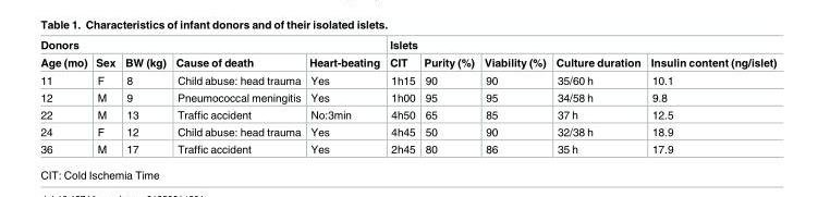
<table><thead><tr><td colspan="5">Donors</td><td colspan="5">Islets</td></tr><tr><td>Age (mo)</td><td>Sex</td><td>BW (kg)</td><td>Cause of death</td><td>Heart-beating</td><td>CIT</td><td>Purity (%)</td><td>Viability (%)</td><td>Culture duration</td><td>Insulin content (ng/islet)</td></tr></thead><tbody><tr><td>11</td><td>F</td><td>8</td><td>Child abuse: head trauma</td><td>Yes</td><td>1h15</td><td>90</td><td>90</td><td>35/60 h</td><td>10.1</td></tr><tr><td>12</td><td>M</td><td>9</td><td>Pneumococcal meningitis</td><td>Yes</td><td>1h00</td><td>95</td><td>95</td><td>34/58 h</td><td>9.8</td></tr><tr><td>22</td><td>M</td><td>13</td><td>Traffic accident</td><td>No:3min</td><td>4h50</td><td>65</td><td>85</td><td>37 h</td><td>12.5</td></tr><tr><td>24</td><td>F</td><td>12</td><td>Child abuse: head trauma</td><td>Yes</td><td>4h45</td><td>50</td><td>90</td><td>32/38 h</td><td>18.9</td></tr><tr><td>36</td><td>M</td><td>17</td><td>Traffic accident</td><td>Yes</td><td>2h45</td><td>80</td><td>86</td><td>35 h</td><td>17.9</td></tr></tbody></table>